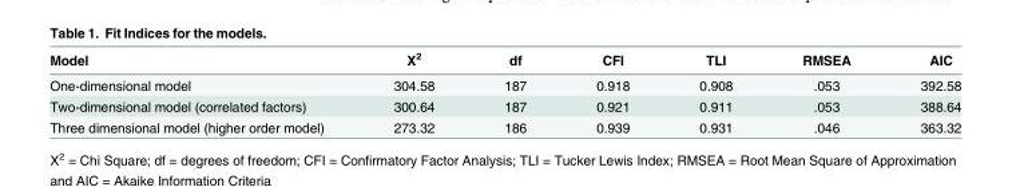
<table><thead><tr><td>Model</td><td>X<sup>2</sup></td><td>df</td><td>CFI</td><td>TLI</td><td>RMSEA</td><td>AIC</td></tr></thead><tbody><tr><td>One-dimensional model</td><td>304.58</td><td>187</td><td>0.918</td><td>0.908</td><td>.053</td><td>392.58</td></tr><tr><td>Two-dimensional model (correlated factors)</td><td>300.64</td><td>187</td><td>0.921</td><td>0.911</td><td>.053</td><td>388.64</td></tr><tr><td>Three dimensional model (higher order model)</td><td>273.32</td><td>186</td><td>0.939</td><td>0.931</td><td>.046</td><td>363.32</td></tr></tbody></table>